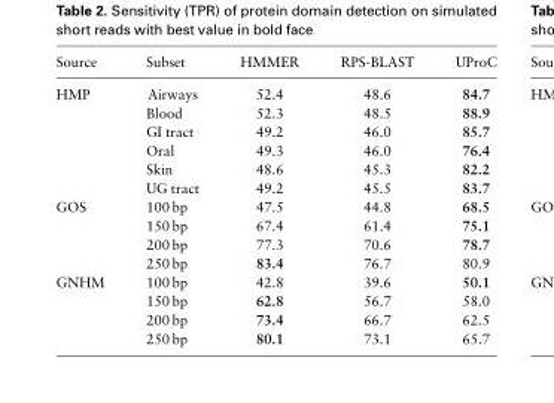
<table><thead><tr><td>Source</td><td>Subset</td><td>HMMER</td><td>RPS-BLAST</td><td>UProC</td></tr></thead><tbody><tr><td rowspan="6">HMP</td><td>Airways</td><td>52.4</td><td>48.6</td><td>84.7</td></tr><tr><td>Blood</td><td>52.3</td><td>48.5</td><td>88.9</td></tr><tr><td>GI tract</td><td>49.2</td><td>46.0</td><td>85.7</td></tr><tr><td>Oral</td><td>49.3</td><td>46.0</td><td>76.4</td></tr><tr><td>Skin</td><td>48.6</td><td>45.3</td><td>82.2</td></tr><tr><td>UG tract</td><td>49.2</td><td>45.5</td><td>83.7</td></tr><tr><td rowspan="4">GOS</td><td>100 bp</td><td>47.5</td><td>44.8</td><td>68.5</td></tr><tr><td>150 bp</td><td>67.4</td><td>61.4</td><td>75.1</td></tr><tr><td>200 bp</td><td>77.3</td><td>70.6</td><td>78.7</td></tr><tr><td>250 bp</td><td>83.4</td><td>76.7</td><td>80.9</td></tr><tr><td rowspan="4">GNHM</td><td>100 bp</td><td>42.8</td><td>39.6</td><td>50.1</td></tr><tr><td>150 bp</td><td>62.8</td><td>56.7</td><td>58.0</td></tr><tr><td>200 bp</td><td>73.4</td><td>66.7</td><td>62.5</td></tr><tr><td>250 bp</td><td>80.1</td><td>73.1</td><td>65.7</td></tr></tbody></table>